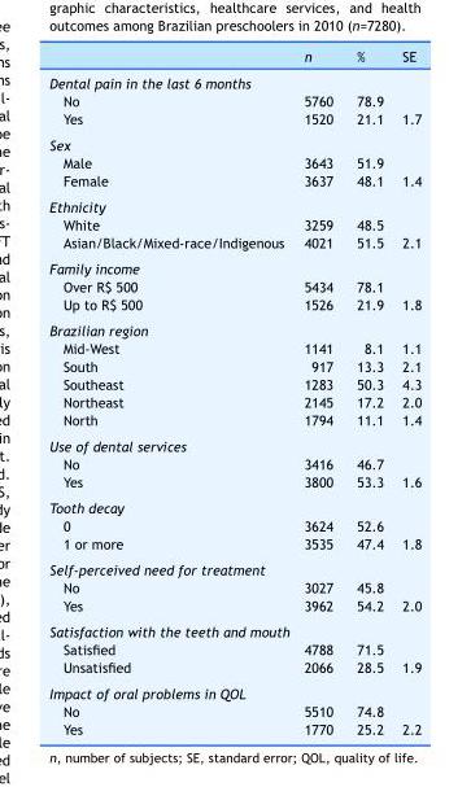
<table><thead><tr><td></td><td>n</td><td>%</td><td>SE</td></tr></thead><tbody><tr><td colspan="4">Dental pain in the last 6 months</td></tr><tr><td>No</td><td>5760</td><td>78.9</td><td></td></tr><tr><td>Yes</td><td>1520</td><td>21.1</td><td>1.7</td></tr><tr><td colspan="4">Sex</td></tr><tr><td>Male</td><td>3643</td><td>51.9</td><td></td></tr><tr><td>Female</td><td>3637</td><td>48.1</td><td>1.4</td></tr><tr><td colspan="4">Ethnicity</td></tr><tr><td>White</td><td>3259</td><td>48.5</td><td></td></tr><tr><td>Asian/Black/Mixed-race/Indigenous</td><td>4021</td><td>51.5</td><td>2.1</td></tr><tr><td colspan="4">Family income</td></tr><tr><td>Over R$ 500</td><td>5434</td><td>78.1</td><td></td></tr><tr><td>Up to R$ 500</td><td>1526</td><td>21.9</td><td>1.8</td></tr><tr><td colspan="4">Brazilian region</td></tr><tr><td>Mid-West</td><td>1141</td><td>8.1</td><td>1.1</td></tr><tr><td>South</td><td>917</td><td>13.3</td><td>2.1</td></tr><tr><td>Southeast</td><td>1283</td><td>50.3</td><td>4.3</td></tr><tr><td>Northeast</td><td>2145</td><td>17.2</td><td>2.0</td></tr><tr><td>North</td><td>1794</td><td>11.1</td><td>1.4</td></tr><tr><td colspan="4">Use of dental services</td></tr><tr><td>No</td><td>3416</td><td>46.7</td><td></td></tr><tr><td>Yes</td><td>3800</td><td>53.3</td><td>1.6</td></tr><tr><td colspan="4">Tooth decay</td></tr><tr><td>0</td><td>3624</td><td>52.6</td><td></td></tr><tr><td>1 or more</td><td>3535</td><td>47.4</td><td>1.8</td></tr><tr><td colspan="4">Self-perceived need for treatment</td></tr><tr><td>No</td><td>3027</td><td>45.8</td><td></td></tr><tr><td>Yes</td><td>3962</td><td>54.2</td><td>2.0</td></tr><tr><td colspan="4">Satisfaction with the teeth and mouth</td></tr><tr><td>Satisfied</td><td>4788</td><td>71.5</td><td></td></tr><tr><td>Unsatisfied</td><td>2066</td><td>28.5</td><td>1.9</td></tr><tr><td colspan="4">Impact of oral problems in QOL</td></tr><tr><td>No</td><td>5510</td><td>74.8</td><td></td></tr><tr><td>Yes</td><td>1770</td><td>25.2</td><td>2.2</td></tr></tbody></table>